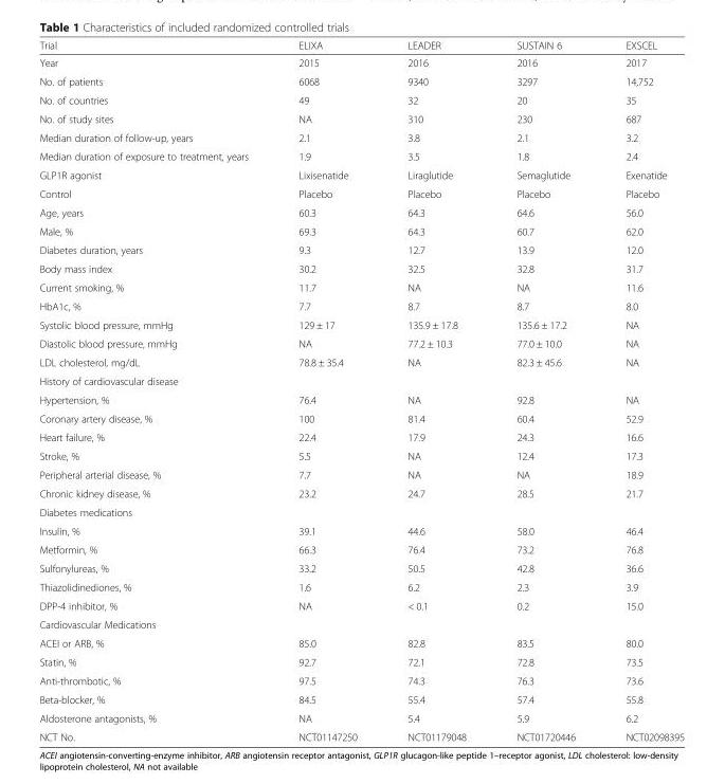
<table><thead><tr><td>Trial</td><td>ELIXA</td><td>LEADER</td><td>SUSTAIN 6</td><td>EXSCEL</td></tr></thead><tbody><tr><td>Year</td><td>2015</td><td>2016</td><td>2016</td><td>2017</td></tr><tr><td>No. of patients</td><td>6068</td><td>9340</td><td>3297</td><td>14,752</td></tr><tr><td>No. of countries</td><td>49</td><td>32</td><td>20</td><td>35</td></tr><tr><td>No. of study sites</td><td>NA</td><td>310</td><td>230</td><td>687</td></tr><tr><td>Median duration of follow-up, years</td><td>2.1</td><td>3.8</td><td>2.1</td><td>3.2</td></tr><tr><td>Median duration of exposure to treatment, years</td><td>1.9</td><td>3.5</td><td>1.8</td><td>2.4</td></tr><tr><td>GLP1R agonist</td><td>Lixisenatide</td><td>Liraglutide</td><td>Semaglutide</td><td>Exenatide</td></tr><tr><td>Control</td><td>Placebo</td><td>Placebo</td><td>Placebo</td><td>Placebo</td></tr><tr><td>Age, years</td><td>60.3</td><td>64.3</td><td>64.6</td><td>56.0</td></tr><tr><td>Male, %</td><td>69.3</td><td>64.3</td><td>60.7</td><td>62.0</td></tr><tr><td>Diabetes duration, years</td><td>9.3</td><td>12.7</td><td>13.9</td><td>12.0</td></tr><tr><td>Body mass index</td><td>30.2</td><td>32.5</td><td>32.8</td><td>31.7</td></tr><tr><td>Current smoking, %</td><td>11.7</td><td>NA</td><td>NA</td><td>11.6</td></tr><tr><td>HbA1c, %</td><td>7.7</td><td>8.7</td><td>8.7</td><td>8.0</td></tr><tr><td>Systolic blood pressure, mmHg</td><td>129 ± 17</td><td>135.9 ± 17.8</td><td>135.6 ± 17.2</td><td>NA</td></tr><tr><td>Diastolic blood pressure, mmHg</td><td>NA</td><td>77.2 ± 10.3</td><td>77.0 ± 10.0</td><td>NA</td></tr><tr><td>LDL cholesterol, mg/dL</td><td>78.8 ± 35.4</td><td>NA</td><td>82.3 ± 45.6</td><td>NA</td></tr><tr><td colspan="5">History of cardiovascular disease</td></tr><tr><td>Hypertension, %</td><td>76.4</td><td>NA</td><td>92.8</td><td>NA</td></tr><tr><td>Coronary artery disease, %</td><td>100</td><td>81.4</td><td>60.4</td><td>52.9</td></tr><tr><td>Heart failure, %</td><td>22.4</td><td>17.9</td><td>24.3</td><td>16.6</td></tr><tr><td>Stroke, %</td><td>5.5</td><td>NA</td><td>12.4</td><td>17.3</td></tr><tr><td>Peripheral arterial disease, %</td><td>7.7</td><td>NA</td><td>NA</td><td>18.9</td></tr><tr><td>Chronic kidney disease, %</td><td>23.2</td><td>24.7</td><td>28.5</td><td>21.7</td></tr><tr><td colspan="5">Diabetes medications</td></tr><tr><td>Insulin, %</td><td>39.1</td><td>44.6</td><td>58.0</td><td>46.4</td></tr><tr><td>Metformin, %</td><td>66.3</td><td>76.4</td><td>73.2</td><td>76.8</td></tr><tr><td>Sulfonylureas, %</td><td>33.2</td><td>50.5</td><td>42.8</td><td>36.6</td></tr><tr><td>Thiazolidinediones, %</td><td>1.6</td><td>6.2</td><td>2.3</td><td>3.9</td></tr><tr><td>DPP-4 inhibitor, %</td><td>NA</td><td>&lt; 0.1</td><td>0.2</td><td>15.0</td></tr><tr><td colspan="5">Cardiovascular Medications</td></tr><tr><td>ACEI or ARB, %</td><td>85.0</td><td>82.8</td><td>83.5</td><td>80.0</td></tr><tr><td>Statin, %</td><td>92.7</td><td>72.1</td><td>72.8</td><td>73.5</td></tr><tr><td>Anti-thrombotic, %</td><td>97.5</td><td>74.3</td><td>76.3</td><td>73.6</td></tr><tr><td>Beta-blocker, %</td><td>84.5</td><td>55.4</td><td>57.4</td><td>55.8</td></tr><tr><td>Aldosterone antagonists, %</td><td>NA</td><td>5.4</td><td>5.9</td><td>6.2</td></tr><tr><td>NCT No.</td><td>NCT01147250</td><td>NCT01179048</td><td>NCT01720446</td><td>NCT02098395</td></tr></tbody></table>